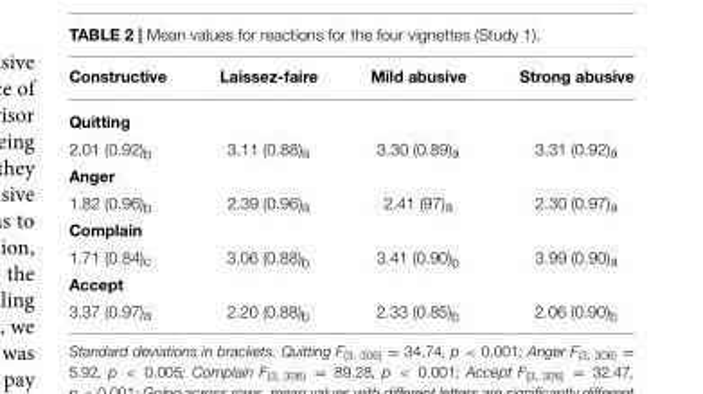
<table><thead><tr><td>Constructive</td><td>Laissez-faire</td><td>Mild abusive</td><td>Strong abusive</td></tr></thead><tbody><tr><td colspan="4">Quitting</td></tr><tr><td>2.01 (0.92)<sub>b</sub></td><td>3.11 (0.88)<sub>a</sub></td><td>3.30 (0.89)<sub>a</sub></td><td>3.31 (0.92)<sub>a</sub></td></tr><tr><td colspan="4">Anger</td></tr><tr><td>1.82 (0.96)<sub>b</sub></td><td>2.39 (0.96)<sub>a</sub></td><td>2.41 (97)<sub>a</sub></td><td>2.30 (0.97)<sub>a</sub></td></tr><tr><td colspan="4">Complain</td></tr><tr><td>1.71 (0.84)<sub>c</sub></td><td>3.06 (0.88)<sub>b</sub></td><td>3.41 (0.90)<sub>b</sub></td><td>3.99 (0.90)<sub>a</sub></td></tr><tr><td colspan="4">Accept</td></tr><tr><td>3.37 (0.97)<sub>a</sub></td><td>2.20 (0.88)<sub>b</sub></td><td>2.33 (0.85)<sub>b</sub></td><td>2.06 (0.90)<sub>b</sub></td></tr></tbody></table>